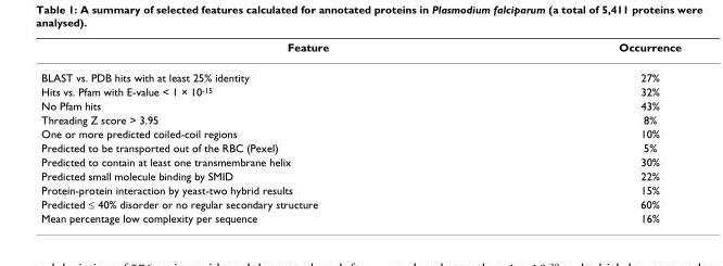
<table><thead><tr><td>Feature</td><td>Occurrence</td></tr></thead><tbody><tr><td>BLAST vs. PDB hits with at least 25% identity</td><td>27%</td></tr><tr><td>Hits vs. Pfam with E-value &lt; 1 × 10<sup>-15</sup></td><td>32%</td></tr><tr><td>No Pfam hits</td><td>43%</td></tr><tr><td>Threading Z score &gt; 3.95</td><td>8%</td></tr><tr><td>One or more predicted coiled-coil regions</td><td>10%</td></tr><tr><td>Predicted to be transported out of the RBC (Pexel)</td><td>5%</td></tr><tr><td>Predicted to contain at least one transmembrane helix</td><td>30%</td></tr><tr><td>Predicted small molecule binding by SMID</td><td>22%</td></tr><tr><td>Protein-protein interaction by yeast-two hybrid results</td><td>15%</td></tr><tr><td>Predicted ≤ 40% disorder or no regular secondary structure</td><td>60%</td></tr><tr><td>Mean percentage low complexity per sequence</td><td>16%</td></tr></tbody></table>